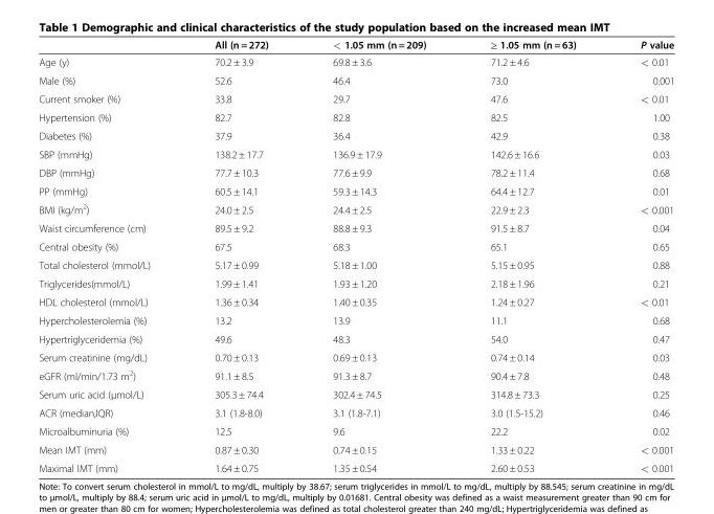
<table><thead><tr><td></td><td>All (n = 272)</td><td>&lt; 1.05 mm (n = 209)</td><td>≥ 1.05 mm (n = 63)</td><td>P value</td></tr></thead><tbody><tr><td>Age (y)</td><td>70.2 ± 3.9</td><td>69.8 ± 3.6</td><td>71.2 ± 4.6</td><td>&lt; 0.01</td></tr><tr><td>Male (%)</td><td>52.6</td><td>46.4</td><td>73.0</td><td>0.001</td></tr><tr><td>Current smoker (%)</td><td>33.8</td><td>29.7</td><td>47.6</td><td>&lt; 0.01</td></tr><tr><td>Hypertension (%)</td><td>82.7</td><td>82.8</td><td>82.5</td><td>1.00</td></tr><tr><td>Diabetes (%)</td><td>37.9</td><td>36.4</td><td>42.9</td><td>0.38</td></tr><tr><td>SBP (mmHg)</td><td>138.2 ± 17.7</td><td>136.9 ± 17.9</td><td>142.6 ± 16.6</td><td>0.03</td></tr><tr><td>DBP (mmHg)</td><td>77.7 ± 10.3</td><td>77.6 ± 9.9</td><td>78.2 ± 11.4</td><td>0.68</td></tr><tr><td>PP (mmHg)</td><td>60.5 ± 14.1</td><td>59.3 ± 14.3</td><td>64.4 ± 12.7</td><td>0.01</td></tr><tr><td>BMI (kg/m<sup>2</sup>)</td><td>24.0 ± 2.5</td><td>24.4 ± 2.5</td><td>22.9 ± 2.3</td><td>&lt; 0.001</td></tr><tr><td>Waist circumference (cm)</td><td>89.5 ± 9.2</td><td>88.8 ± 9.3</td><td>91.5 ± 8.7</td><td>0.04</td></tr><tr><td>Central obesity (%)</td><td>67.5</td><td>68.3</td><td>65.1</td><td>0.65</td></tr><tr><td>Total cholesterol (mmol/L)</td><td>5.17 ± 0.99</td><td>5.18 ± 1.00</td><td>5.15 ± 0.95</td><td>0.88</td></tr><tr><td>Triglycerides(mmol/L)</td><td>1.99 ± 1.41</td><td>1.93 ± 1.20</td><td>2.18 ± 1.96</td><td>0.21</td></tr><tr><td>HDL cholesterol (mmol/L)</td><td>1.36 ± 0.34</td><td>1.40 ± 0.35</td><td>1.24 ± 0.27</td><td>&lt; 0.01</td></tr><tr><td>Hypercholesterolemia (%)</td><td>13.2</td><td>13.9</td><td>11.1</td><td>0.68</td></tr><tr><td>Hypertriglyceridemia (%)</td><td>49.6</td><td>48.3</td><td>54.0</td><td>0.47</td></tr><tr><td>Serum creatinine (mg/dL)</td><td>0.70 ± 0.13</td><td>0.69 ± 0.13</td><td>0.74 ± 0.14</td><td>0.03</td></tr><tr><td>eGFR (ml/min/1.73 m<sup>2</sup>)</td><td>91.1 ± 8.5</td><td>91.3 ± 8.7</td><td>90.4 ± 7.8</td><td>0.48</td></tr><tr><td>Serum uric acid (μmol/L)</td><td>305.3 ± 74.4</td><td>302.4 ± 74.5</td><td>314.8 ± 73.3</td><td>0.25</td></tr><tr><td>ACR (median,IQR)</td><td>3.1 (1.8-8.0)</td><td>3.1 (1.8-7.1)</td><td>3.0 (1.5-15.2)</td><td>0.46</td></tr><tr><td>Microalbuminuria (%)</td><td>12.5</td><td>9.6</td><td>22.2</td><td>0.02</td></tr><tr><td>Mean IMT (mm)</td><td>0.87 ± 0.30</td><td>0.74 ± 0.15</td><td>1.33 ± 0.22</td><td>&lt; 0.001</td></tr><tr><td>Maximal IMT (mm)</td><td>1.64 ± 0.75</td><td>1.35 ± 0.54</td><td>2.60 ± 0.53</td><td>&lt; 0.001</td></tr></tbody></table>